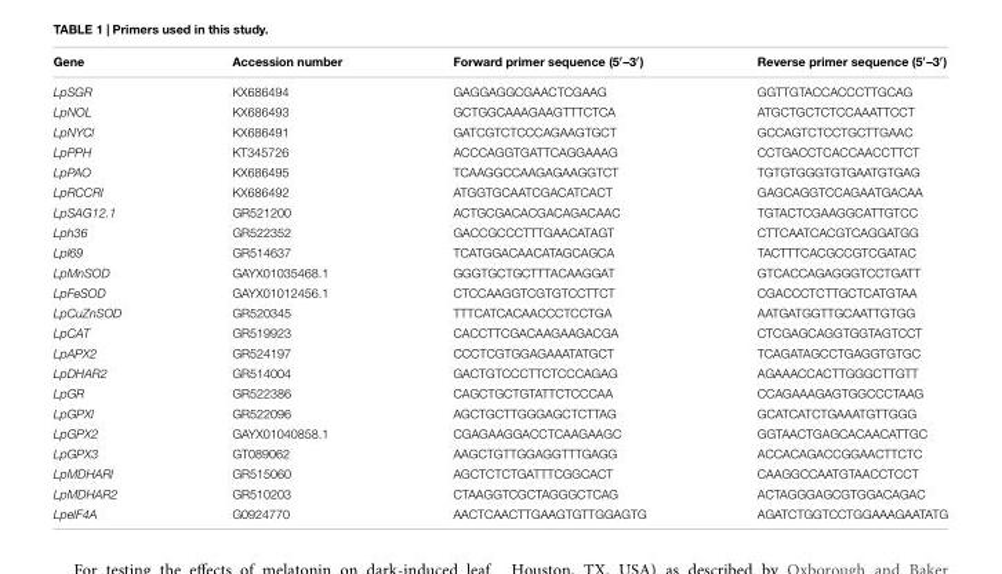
<table><thead><tr><td>Gene</td><td>Accession number</td><td>Forward primer sequence (5′–3′)</td><td>Reverse primer sequence (5′–3′)</td></tr></thead><tbody><tr><td>LpSGR</td><td>KX686494</td><td>GAGGAGGCGAACTCGAAG</td><td>GGTTGTACCACCCTTGCAG</td></tr><tr><td>LpNOL</td><td>KX686493</td><td>GCTGGCAAAGAAGTTTCTCA</td><td>ATGCTGCTCTCCAAATTCCT</td></tr><tr><td>LpNYCl</td><td>KX686491</td><td>GATCGTCTCCCAGAAGTGCT</td><td>GCCAGTCTCCTGCTTGAAC</td></tr><tr><td>LpPPH</td><td>KT345726</td><td>ACCCAGGTGATTCAGGAAAG</td><td>CCTGACCTCACCAACCTTCT</td></tr><tr><td>LpPAO</td><td>KX686495</td><td>TCAAGGCCAAGAGAAGGTCT</td><td>TGTGTGGGTGTGAATGTGAG</td></tr><tr><td>LpRCCRl</td><td>KX686492</td><td>ATGGTGCAATCGACATCACT</td><td>GAGCAGGTCCAGAATGACAA</td></tr><tr><td>LpSAG12.1</td><td>GR521200</td><td>ACTGCGACACGACAGACAAC</td><td>TGTACTCGAAGGCATTGTCC</td></tr><tr><td>Lph36</td><td>GR522352</td><td>GACCGCCCTTTGAACATAGT</td><td>CTTCAATCACGTCAGGATGG</td></tr><tr><td>Lpl69</td><td>GR514637</td><td>TCATGGACAACATAGCAGCA</td><td>TACTTTCACGCCGTCGATAC</td></tr><tr><td>LpMnSOD</td><td>GAYX01035468.1</td><td>GGGTGCTGCTTTACAAGGAT</td><td>GTCACCAGAGGGTCCTGATT</td></tr><tr><td>LpFeSOD</td><td>GAYX01012456.1</td><td>CTCCAAGGTCGTGTCCTTCT</td><td>CGACCCTCTTGCTCATGTAA</td></tr><tr><td>LpCuZnSOD</td><td>GR520345</td><td>TTTCATCACAACCCTCCTGA</td><td>AATGATGGTTGCAATTGTGG</td></tr><tr><td>LpCAT</td><td>GR519923</td><td>CACCTTCGACAAGAAGACGA</td><td>CTCGAGCAGGTGGTAGTCCT</td></tr><tr><td>LpAPX2</td><td>GR524197</td><td>CCCTCGTGGAGAAATATGCT</td><td>TCAGATAGCCTGAGGTGTGC</td></tr><tr><td>LpDHAR2</td><td>GR514004</td><td>GACTGTCCCTTCTCCCAGAG</td><td>AGAAACCACTTGGGCTTGTT</td></tr><tr><td>LpGR</td><td>GR522386</td><td>CAGCTGCTGTATTCTCCCAA</td><td>CCAGAAAGAGTGGCCCTAAG</td></tr><tr><td>LpGPXl</td><td>GR522096</td><td>AGCTGCTTGGGAGCTCTTAG</td><td>GCATCATCTGAAATGTTGGG</td></tr><tr><td>LpGPX2</td><td>GAYX01040858.1</td><td>CGAGAAGGACCTCAAGAAGC</td><td>GGTAACTGAGCACAACATTGC</td></tr><tr><td>LpGPX3</td><td>GT089062</td><td>AAGCTGTTGGAGGTTTGAGG</td><td>ACCACAGACCGGAACTTCTC</td></tr><tr><td>LpMDHARl</td><td>GR515060</td><td>AGCTCTCTGATTTCGGCACT</td><td>CAAGGCCAATGTAACCTCCT</td></tr><tr><td>LpMDHAR2</td><td>GR510203</td><td>CTAAGGTCGCTAGGGCTCAG</td><td>ACTAGGGAGCGTGGACAGAC</td></tr><tr><td>LpelF4A</td><td>G0924770</td><td>AACTCAACTTGAAGTGTTGGAGTG</td><td>AGATCTGGTCCTGGAAAGAATATG</td></tr></tbody></table>